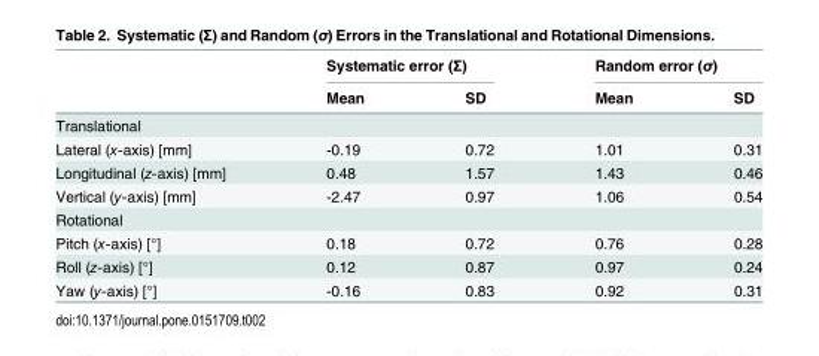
<table><thead><tr><td rowspan="2"></td><td colspan="2">Systematic error (Σ)</td><td colspan="2">Random error (σ)</td></tr><tr><td>Mean</td><td>SD</td><td>Mean</td><td>SD</td></tr></thead><tbody><tr><td colspan="5">Translational</td></tr><tr><td>Lateral (x-axis) [mm]</td><td>-0.19</td><td>0.72</td><td>1.01</td><td>0.31</td></tr><tr><td>Longitudinal (z-axis) [mm]</td><td>0.48</td><td>1.57</td><td>1.43</td><td>0.46</td></tr><tr><td>Vertical (y-axis) [mm]</td><td>-2.47</td><td>0.97</td><td>1.06</td><td>0.54</td></tr><tr><td colspan="5">Rotational</td></tr><tr><td>Pitch (x-axis) [°]</td><td>0.18</td><td>0.72</td><td>0.76</td><td>0.28</td></tr><tr><td>Roll (z-axis) [°]</td><td>0.12</td><td>0.87</td><td>0.97</td><td>0.24</td></tr><tr><td>Yaw (y-axis) [°]</td><td>-0.16</td><td>0.83</td><td>0.92</td><td>0.31</td></tr></tbody></table>